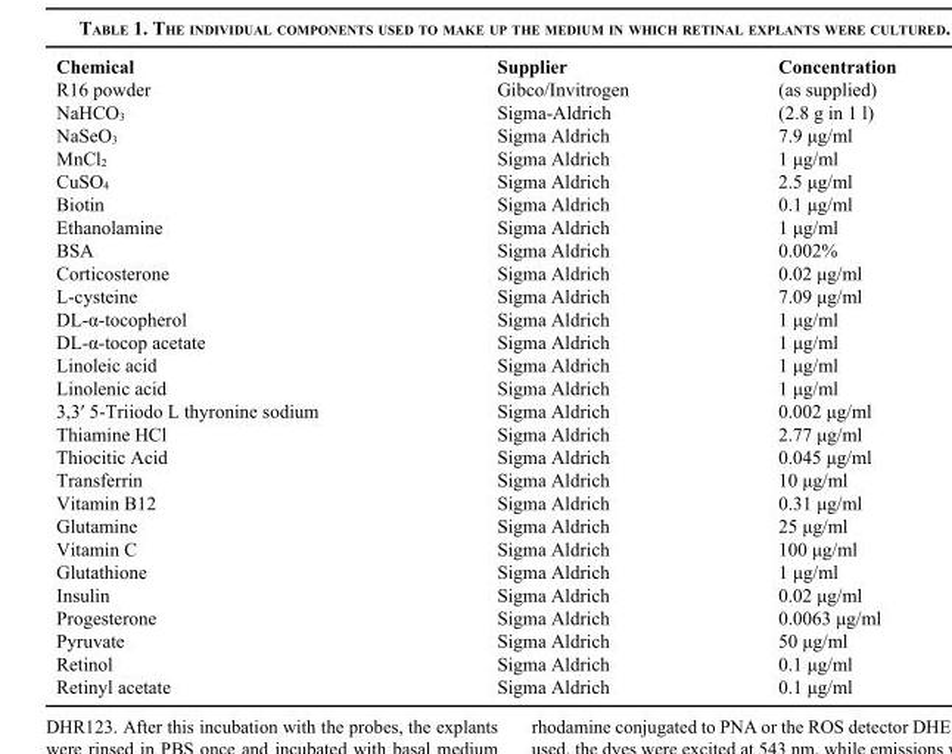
<table><thead><tr><td>Chemical</td><td>Supplier</td><td>Concentration</td></tr></thead><tbody><tr><td>R16 powder</td><td>Gibco/Invitrogen</td><td>(as supplied)</td></tr><tr><td>NaHCO<sub>3</sub></td><td>Sigma-Aldrich</td><td>(2.8 g in 1 l)</td></tr><tr><td>NaSeO<sub>3</sub></td><td>Sigma Aldrich</td><td>7.9 μg/ml</td></tr><tr><td>MnCl<sub>2</sub></td><td>Sigma Aldrich</td><td>1 μg/ml</td></tr><tr><td>CuSO<sub>4</sub></td><td>Sigma Aldrich</td><td>2.5 μg/ml</td></tr><tr><td>Biotin</td><td>Sigma Aldrich</td><td>0.1 μg/ml</td></tr><tr><td>Ethanolamine</td><td>Sigma Aldrich</td><td>1 μg/ml</td></tr><tr><td>BSA</td><td>Sigma Aldrich</td><td>0.002%</td></tr><tr><td>Corticosterone</td><td>Sigma Aldrich</td><td>0.02 μg/ml</td></tr><tr><td>L-cysteine</td><td>Sigma Aldrich</td><td>7.09 μg/ml</td></tr><tr><td>DL-α-tocopherol</td><td>Sigma Aldrich</td><td>1 μg/ml</td></tr><tr><td>DL-α-tocop acetate</td><td>Sigma Aldrich</td><td>1 μg/ml</td></tr><tr><td>Linoleic acid</td><td>Sigma Aldrich</td><td>1 μg/ml</td></tr><tr><td>Linolenic acid</td><td>Sigma Aldrich</td><td>1 μg/ml</td></tr><tr><td>3,3′ 5-Triiodo L thyronine sodium</td><td>Sigma Aldrich</td><td>0.002 μg/ml</td></tr><tr><td>Thiamine HCl</td><td>Sigma Aldrich</td><td>2.77 μg/ml</td></tr><tr><td>Thiocitic Acid</td><td>Sigma Aldrich</td><td>0.045 μg/ml</td></tr><tr><td>Transferrin</td><td>Sigma Aldrich</td><td>10 μg/ml</td></tr><tr><td>Vitamin B12</td><td>Sigma Aldrich</td><td>0.31 μg/ml</td></tr><tr><td>Glutamine</td><td>Sigma Aldrich</td><td>25 μg/ml</td></tr><tr><td>Vitamin C</td><td>Sigma Aldrich</td><td>100 μg/ml</td></tr><tr><td>Glutathione</td><td>Sigma Aldrich</td><td>1 μg/ml</td></tr><tr><td>Insulin</td><td>Sigma Aldrich</td><td>0.02 μg/ml</td></tr><tr><td>Progesterone</td><td>Sigma Aldrich</td><td>0.0063 μg/ml</td></tr><tr><td>Pyruvate</td><td>Sigma Aldrich</td><td>50 μg/ml</td></tr><tr><td>Retinol</td><td>Sigma Aldrich</td><td>0.1 μg/ml</td></tr><tr><td>Retinyl acetate</td><td>Sigma Aldrich</td><td>0.1 μg/ml</td></tr></tbody></table>